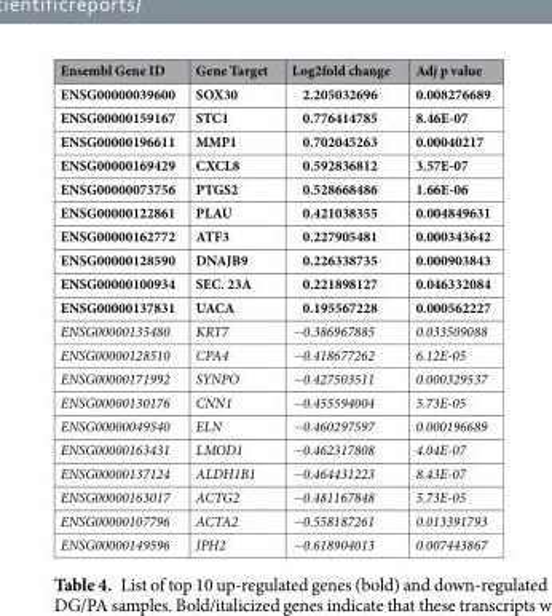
<table><thead><tr><td>Ensembl Gene ID</td><td>Gene Target</td><td>Log2fold change</td><td>Adj p value</td></tr></thead><tbody><tr><td>ENSG00000039600</td><td>SOX30</td><td>2.205032696</td><td>0.008276689</td></tr><tr><td>ENSG00000159167</td><td>STC1</td><td>0.776414785</td><td>8.46E-07</td></tr><tr><td>ENSG00000196611</td><td>MMP1</td><td>0.702045263</td><td>0.00040217</td></tr><tr><td>ENSG00000169429</td><td>CXCL8</td><td>0.592836812</td><td>3.57E-07</td></tr><tr><td>ENSG00000073756</td><td>PTGS2</td><td>0.528668486</td><td>1.66E-06</td></tr><tr><td>ENSG00000122861</td><td>PLAU</td><td>0.421038355</td><td>0.004849631</td></tr><tr><td>ENSG00000162772</td><td>ATF3</td><td>0.227905481</td><td>0.000343642</td></tr><tr><td>ENSG00000128590</td><td>DNAJB9</td><td>0.226338735</td><td>0.000903843</td></tr><tr><td>ENSG00000100934</td><td>SEC. 23A</td><td>0.221898127</td><td>0.046332084</td></tr><tr><td>ENSG00000137831</td><td>UACA</td><td>0.195567228</td><td>0.000562227</td></tr><tr><td>ENSG00000135480</td><td>KRT7</td><td>−0.386967885</td><td>0.033509088</td></tr><tr><td>ENSG00000128510</td><td>CPA4</td><td>−0.418677262</td><td>6.12E-05</td></tr><tr><td>ENSG00000171992</td><td>SYNPO</td><td>−0.427503511</td><td>0.000329537</td></tr><tr><td>ENSG00000130176</td><td>CNN1</td><td>−0.455594004</td><td>5.73E-05</td></tr><tr><td>ENSG00000049540</td><td>ELN</td><td>−0.460297597</td><td>0.000196689</td></tr><tr><td>ENSG00000163431</td><td>LMOD1</td><td>−0.462317808</td><td>4.04E-07</td></tr><tr><td>ENSG00000137124</td><td>ALDH1B1</td><td>−0.464431223</td><td>8.43E-07</td></tr><tr><td>ENSG00000163017</td><td>ACTG2</td><td>−0.481167848</td><td>5.73E-05</td></tr><tr><td>ENSG00000107796</td><td>ACTA2</td><td>−0.558187261</td><td>0.013391793</td></tr><tr><td>ENSG00000149596</td><td>JPH2</td><td>−0.618904013</td><td>0.007443867</td></tr></tbody></table>